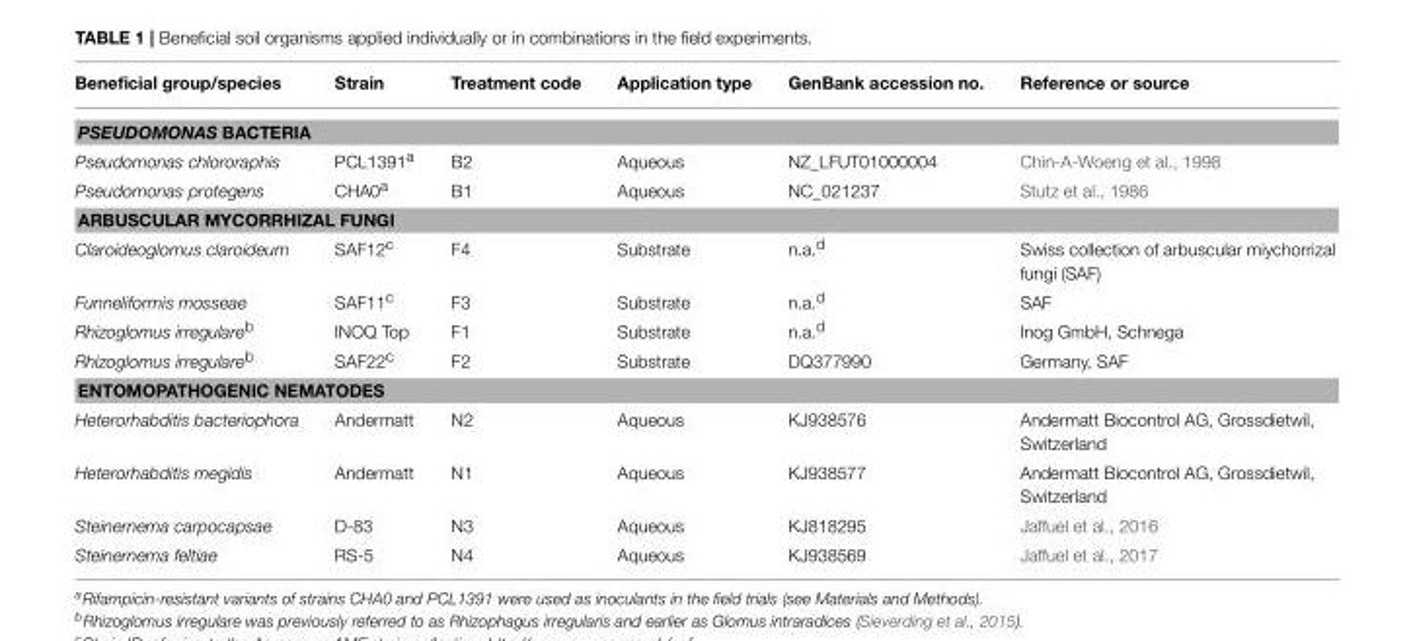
<table><thead><tr><td>Beneficial group/species</td><td>Strain</td><td>Treatment code</td><td>Application type</td><td>GenBank accession no.</td><td>Reference or source</td></tr></thead><tbody><tr><td colspan="6">PSEUDOMONAS BACTERIA</td></tr><tr><td>Pseudomonas chlororaphis</td><td>PCL1391<sup>a</sup></td><td>B2</td><td>Aqueous</td><td>NZ_LFUT01000004</td><td>Chin-A-Woeng et al., 1998</td></tr><tr><td>Pseudomonas protegens</td><td>CHA0<sup>a</sup></td><td>B1</td><td>Aqueous</td><td>NC_021237</td><td>Stutz et al., 1986</td></tr><tr><td colspan="6">ARBUSCULAR MYCORRHIZAL FUNGI</td></tr><tr><td>Claroideoglomus claroideum</td><td>SAF12<sup>c</sup></td><td>F4</td><td>Substrate</td><td>n.a.<sup>d</sup></td><td>Swiss collection of arbuscular miychorrizal fungi (SAF)</td></tr><tr><td>Funneliformis mosseae</td><td>SAF11<sup>c</sup></td><td>F3</td><td>Substrate</td><td>n.a.<sup>d</sup></td><td>SAF</td></tr><tr><td>Rhizoglomus irregulare<sup>b</sup></td><td>INOQ Top</td><td>F1</td><td>Substrate</td><td>n.a.<sup>d</sup></td><td>Inog GmbH, Schnega</td></tr><tr><td>Rhizoglomus irregulare<sup>b</sup></td><td>SAF22<sup>c</sup></td><td>F2</td><td>Substrate</td><td>DQ377990</td><td>Germany, SAF</td></tr><tr><td colspan="6">ENTOMOPATHOGENIC NEMATODES</td></tr><tr><td>Heterorhabditis bacteriophora</td><td>Andermatt</td><td>N2</td><td>Aqueous</td><td>KJ938576</td><td>Andermatt Biocontrol AG, Grossdietwil, Switzerland</td></tr><tr><td>Heterorhabditis megidis</td><td>Andermatt</td><td>N1</td><td>Aqueous</td><td>KJ938577</td><td>Andermatt Biocontrol AG, Grossdietwil, Switzerland</td></tr><tr><td>Steinernema carpocapsae</td><td>D-83</td><td>N3</td><td>Aqueous</td><td>KJ818295</td><td>Jaffuel et al., 2016</td></tr><tr><td>Steinernema feltiae</td><td>RS-5</td><td>N4</td><td>Aqueous</td><td>KJ938569</td><td>Jaffuel et al., 2017</td></tr></tbody></table>